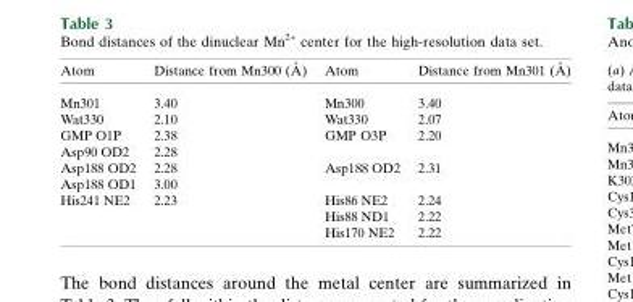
<table><thead><tr><td>Atom</td><td>Distance from Mn300 (A˚ )</td><td>Atom</td><td>Distance from Mn301 (A˚ )</td></tr></thead><tbody><tr><td>Mn301</td><td>3.40</td><td>Mn300</td><td>3.40</td></tr><tr><td>Wat330</td><td>2.10</td><td>Wat330</td><td>2.07</td></tr><tr><td>GMP O1P</td><td>2.38</td><td>GMP O3P</td><td>2.20</td></tr><tr><td>Asp90 OD2</td><td>2.28</td><td></td><td></td></tr><tr><td>Asp188 OD2</td><td>2.28</td><td>Asp188 OD2</td><td>2.31</td></tr><tr><td>Asp188 OD1</td><td>3.00</td><td></td><td></td></tr><tr><td rowspan="3">His241 NE2</td><td>2.23</td><td>His86 NE2</td><td>2.24</td></tr><tr><td></td><td>His88 ND1</td><td>2.22</td></tr><tr><td></td><td>His170 NE2</td><td>2.22</td></tr></tbody></table>